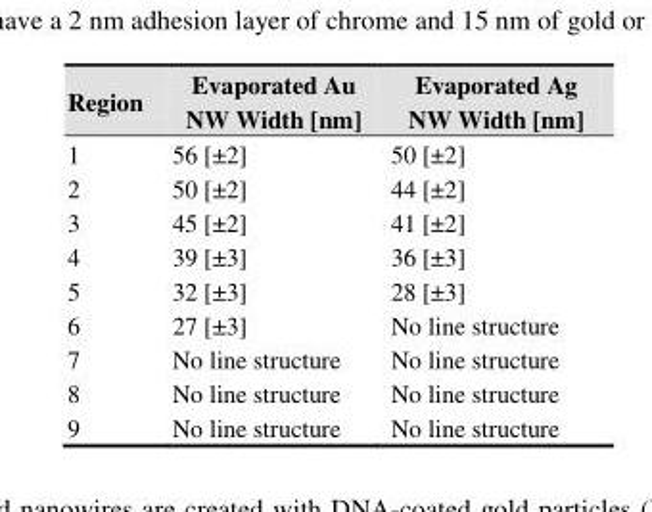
<table><thead><tr><td>Region</td><td>Evaporated Au NW Width [nm]</td><td>Evaporated Ag NW Width [nm]</td></tr></thead><tbody><tr><td>1</td><td>56 [±2]</td><td>50 [±2]</td></tr><tr><td>2</td><td>50 [±2]</td><td>44 [±2]</td></tr><tr><td>3</td><td>45 [±2]</td><td>41 [±2]</td></tr><tr><td>4</td><td>39 [±3]</td><td>36 [±3]</td></tr><tr><td>5</td><td>32 [±3]</td><td>28 [±3]</td></tr><tr><td>6</td><td>27 [±3]</td><td>No line structure</td></tr><tr><td>7</td><td>No line structure</td><td>No line structure</td></tr><tr><td>8</td><td>No line structure</td><td>No line structure</td></tr><tr><td>9</td><td>No line structure</td><td>No line structure</td></tr></tbody></table>